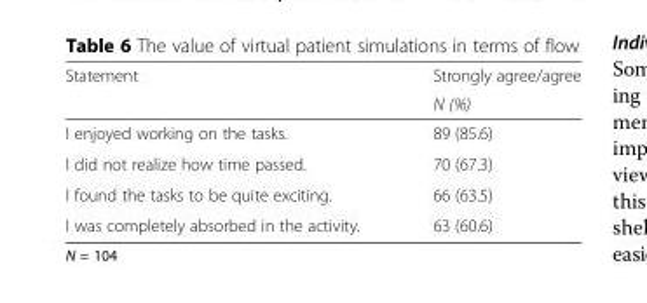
<table><thead><tr><td rowspan="2">Statement</td><td rowspan="2">Strongly agree/agree N (%)</td></tr><tr></tr></thead><tbody><tr><td>I enjoyed working on the tasks.</td><td>89 (85.6)</td></tr><tr><td>I did not realize how time passed.</td><td>70 (67.3)</td></tr><tr><td>I found the tasks to be quite exciting.</td><td>66 (63.5)</td></tr><tr><td>I was completely absorbed in the activity.</td><td>63 (60.6)</td></tr></tbody></table>